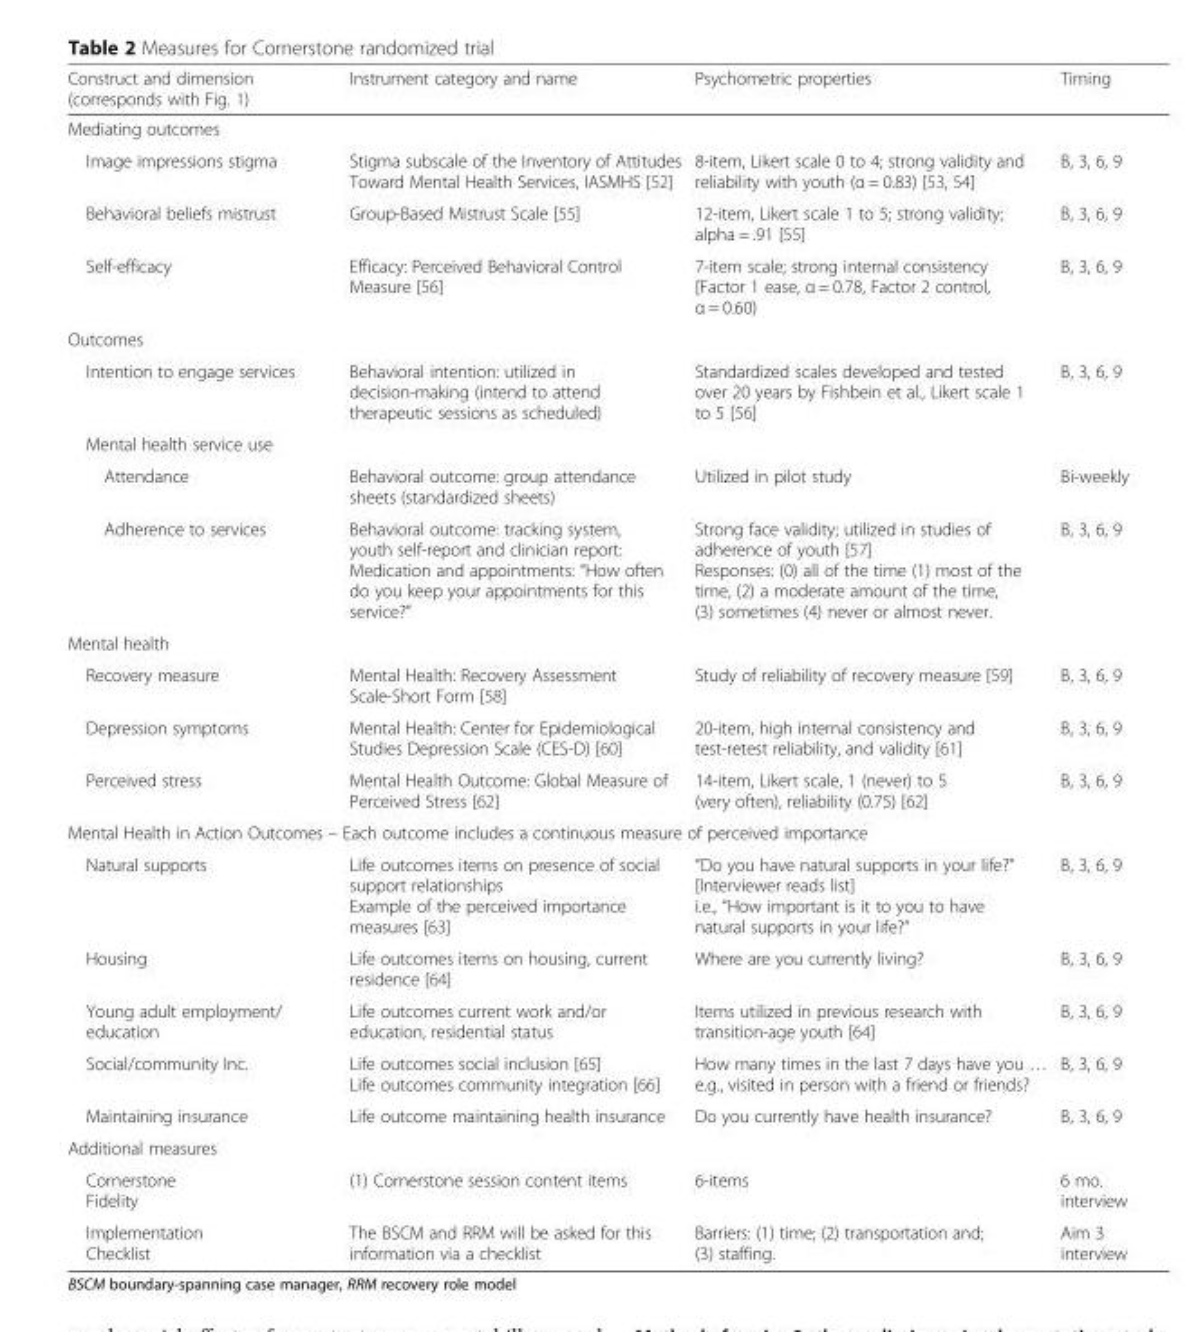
<table><thead><tr><td>Construct and dimension (corresponds with Fig. 1)</td><td>Instrument category and name</td><td>Psychometric properties</td><td>Timing</td></tr></thead><tbody><tr><td colspan="4">Mediating outcomes</td></tr><tr><td>Image impressions stigma</td><td>Stigma subscale of the Inventory of Attitudes Toward Mental Health Services, IASMHS [52]</td><td>8-item, Likert scale 0 to 4; strong validity and reliability with youth (α = 0.83) [53, 54]</td><td>B, 3, 6, 9</td></tr><tr><td>Behavioral beliefs mistrust</td><td>Group-Based Mistrust Scale [55]</td><td>12-item, Likert scale 1 to 5; strong validity; alpha = .91 [55]</td><td>B, 3, 6, 9</td></tr><tr><td>Self-efficacy</td><td>Efficacy: Perceived Behavioral Control Measure [56]</td><td>7-item scale; strong internal consistency [Factor 1 ease, α = 0.78, Factor 2 control, α = 0.60)</td><td>B, 3, 6, 9</td></tr><tr><td colspan="4">Outcomes</td></tr><tr><td>Intention to engage services</td><td>Behavioral intention: utilized in decision-making (intend to attend therapeutic sessions as scheduled)</td><td>Standardized scales developed and tested over 20 years by Fishbein et al., Likert scale 1 to 5 [56]</td><td>B, 3, 6, 9</td></tr><tr><td colspan="4">Mental health service use</td></tr><tr><td>Attendance</td><td>Behavioral outcome: group attendance sheets (standardized sheets)</td><td>Utilized in pilot study</td><td>Bi-weekly</td></tr><tr><td>Adherence to services</td><td>Behavioral outcome: tracking system, youth self-report and clinician report: Medication and appointments: “How often do you keep your appointments for this service?”</td><td>Strong face validity; utilized in studies of adherence of youth [57] Responses: (0) all of the time (1) most of the time, (2) a moderate amount of the time, (3) sometimes (4) never or almost never.</td><td>B, 3, 6, 9</td></tr><tr><td colspan="4">Mental health</td></tr><tr><td>Recovery measure</td><td>Mental Health: Recovery Assessment Scale-Short Form [58]</td><td>Study of reliability of recovery measure [59]</td><td>B, 3, 6, 9</td></tr><tr><td>Depression symptoms</td><td>Mental Health: Center for Epidemiological Studies Depression Scale (CES-D) [60]</td><td>20-item, high internal consistency and test-retest reliability, and validity [61]</td><td>B, 3, 6, 9</td></tr><tr><td>Perceived stress</td><td>Mental Health Outcome: Global Measure of Perceived Stress [62]</td><td>14-item, Likert scale, 1 (never) to 5 (very often), reliability (0.75) [62]</td><td>B, 3, 6, 9</td></tr><tr><td colspan="4">Mental Health in Action Outcomes – Each outcome includes a continuous measure of perceived importance</td></tr><tr><td>Natural supports</td><td>Life outcomes items on presence of social support relationships Example of the perceived importance measures [63]</td><td>“Do you have natural supports in your life?” [Interviewer reads list] i.e., “How important is it to you to have natural supports in your life?”</td><td>B, 3, 6, 9</td></tr><tr><td>Housing</td><td>Life outcomes items on housing, current residence [64]</td><td>Where are you currently living?</td><td>B, 3, 6, 9</td></tr><tr><td>Young adult employment/ education</td><td>Life outcomes current work and/or education, residential status</td><td>Items utilized in previous research with transition-age youth [64]</td><td>B, 3, 6, 9</td></tr><tr><td>Social/community Inc.</td><td>Life outcomes social inclusion [65] Life outcomes community integration [66]</td><td>How many times in the last 7 days have you … e.g., visited in person with a friend or friends?</td><td>B, 3, 6, 9</td></tr><tr><td>Maintaining insurance</td><td>Life outcome maintaining health insurance</td><td>Do you currently have health insurance?</td><td>B, 3, 6, 9</td></tr><tr><td colspan="4">Additional measures</td></tr><tr><td>Cornerstone Fidelity</td><td>(1) Cornerstone session content items</td><td>6-items</td><td>6 mo. interview</td></tr><tr><td>Implementation Checklist</td><td>The BSCM and RRM will be asked for this information via a checklist</td><td>Barriers: (1) time; (2) transportation and; (3) staffing.</td><td>Aim 3 interview</td></tr></tbody></table>